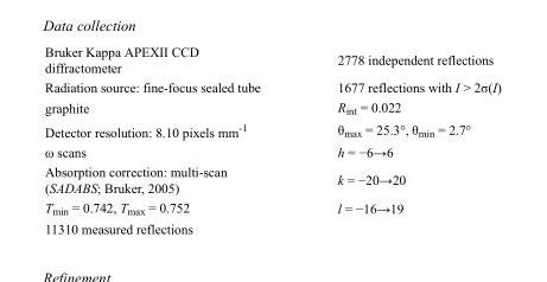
<table><tbody><tr><td>Bruker Kappa APEXII CCD diffractometer</td><td>2778 independent reflections</td></tr><tr><td>Radiation source: fine-focus sealed tube</td><td>1677 reflections with I &gt; 2σ(I)</td></tr><tr><td>graphite</td><td>R<sub>int</sub> = 0.022</td></tr><tr><td>Detector resolution: 8.10 pixels mm<sup>-1</sup></td><td>θ<sub>max</sub> = 25.3°, θ<sub>min</sub> = 2.7°</td></tr><tr><td>ω scans</td><td>h = −6→6</td></tr><tr><td>Absorption correction: multi-scan (SADABS; Bruker, 2005)</td><td>k = −20→20</td></tr><tr><td>T<sub>min</sub> = 0.742, T<sub>max</sub> = 0.752</td><td>l = −16→19</td></tr><tr><td>11310 measured reflections</td><td></td></tr></tbody></table>